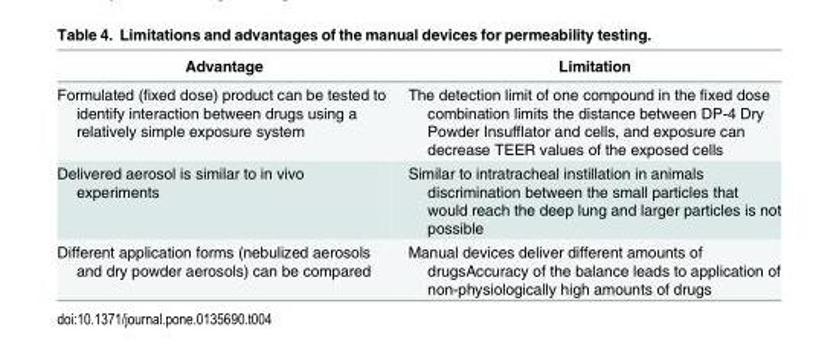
<table><thead><tr><td>Advantage</td><td>Limitation</td></tr></thead><tbody><tr><td>Formulated (fixed dose) product can be tested to identify interaction between drugs using a relatively simple exposure system</td><td>The detection limit of one compound in the fixed dose combination limits the distance between DP-4 Dry Powder Insufflator and cells, and exposure can decrease TEER values of the exposed cells</td></tr><tr><td>Delivered aerosol is similar to in vivo experiments</td><td>Similar to intratracheal instillation in animals discrimination between the small particles that would reach the deep lung and larger particles is not possible</td></tr><tr><td>Different application forms (nebulized aerosols and dry powder aerosols) can be compared</td><td>Manual devices deliver different amounts of drugsAccuracy of the balance leads to application of non-physiologically high amounts of drugs</td></tr></tbody></table>